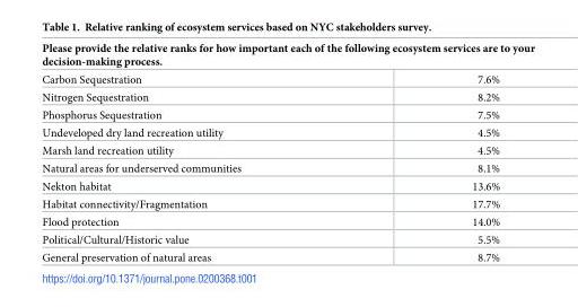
<table><thead><tr><td colspan="2">Please provide the relative ranks for how important each of the following ecosystem services are to your decision-making process.</td></tr><tr><td>Carbon Sequestration</td><td>7.6%</td></tr></thead><tbody><tr><td>Nitrogen Sequestration</td><td>8.2%</td></tr><tr><td>Phosphorus Sequestration</td><td>7.5%</td></tr><tr><td>Undeveloped dry land recreation utility</td><td>4.5%</td></tr><tr><td>Marsh land recreation utility</td><td>4.5%</td></tr><tr><td>Natural areas for underserved communities</td><td>8.1%</td></tr><tr><td>Nekton habitat</td><td>13.6%</td></tr><tr><td>Habitat connectivity/Fragmentation</td><td>17.7%</td></tr><tr><td>Flood protection</td><td>14.0%</td></tr><tr><td>Political/Cultural/Historic value</td><td>5.5%</td></tr><tr><td>General preservation of natural areas</td><td>8.7%</td></tr></tbody></table>